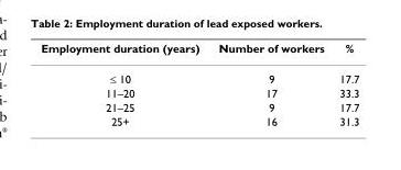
<table><thead><tr><td>Employment duration (years)</td><td>Number of workers</td><td>%</td></tr></thead><tbody><tr><td>≤ 10</td><td>9</td><td>17.7</td></tr><tr><td>11–20</td><td>17</td><td>33.3</td></tr><tr><td>21–25</td><td>9</td><td>17.7</td></tr><tr><td>25+</td><td>16</td><td>31.3</td></tr></tbody></table>